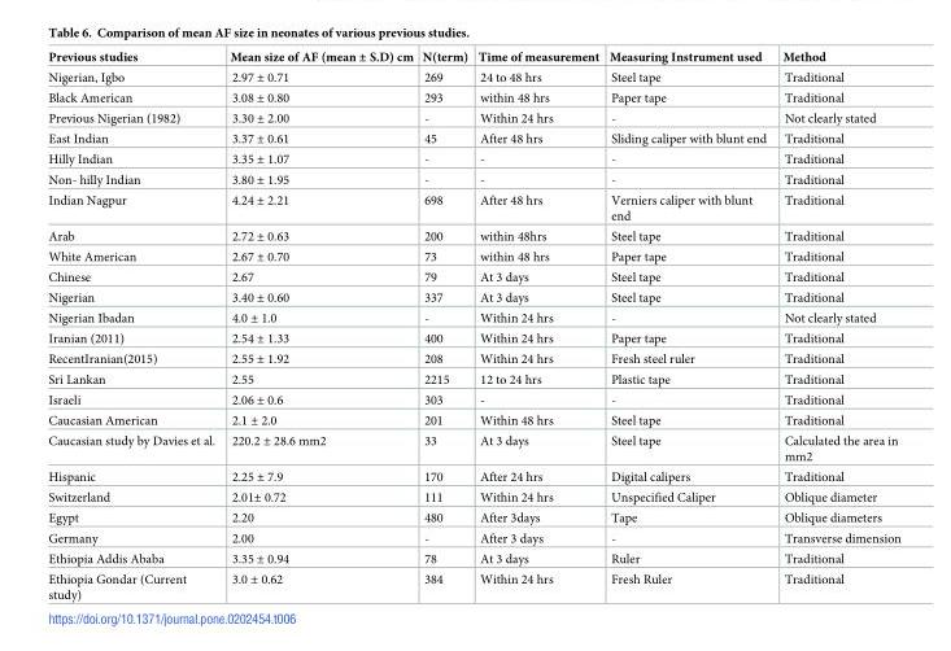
<table><thead><tr><td>Previous studies</td><td>Mean size of AF (mean ± S.D) cm</td><td>N(term)</td><td>Time of measurement</td><td>Measuring Instrument used</td><td>Method</td></tr></thead><tbody><tr><td>Nigerian, Igbo</td><td>2.97 ± 0.71</td><td>269</td><td>24 to 48 hrs</td><td>Steel tape</td><td>Traditional</td></tr><tr><td>Black American</td><td>3.08 ± 0.80</td><td>293</td><td>within 48 hrs</td><td>Paper tape</td><td>Traditional</td></tr><tr><td>Previous Nigerian (1982)</td><td>3.30 ± 2.00</td><td>-</td><td>Within 24 hrs</td><td>-</td><td>Not clearly stated</td></tr><tr><td>East Indian</td><td>3.37 ± 0.61</td><td>45</td><td>After 48 hrs</td><td>Sliding caliper with blunt end</td><td>Traditional</td></tr><tr><td>Hilly Indian</td><td>3.35 ± 1.07</td><td>-</td><td>-</td><td>-</td><td>Traditional</td></tr><tr><td>Non- hilly Indian</td><td>3.80 ± 1.95</td><td>-</td><td>-</td><td>-</td><td>Traditional</td></tr><tr><td>Indian Nagpur</td><td>4.24 ± 2.21</td><td>698</td><td>After 48 hrs</td><td>Verniers caliper with blunt end</td><td>Traditional</td></tr><tr><td>Arab</td><td>2.72 ± 0.63</td><td>200</td><td>within 48hrs</td><td>Steel tape</td><td>Traditional</td></tr><tr><td>White American</td><td>2.67 ± 0.70</td><td>73</td><td>within 48 hrs</td><td>Paper tape</td><td>Traditional</td></tr><tr><td>Chinese</td><td>2.67</td><td>79</td><td>At 3 days</td><td>Steel tape</td><td>Traditional</td></tr><tr><td>Nigerian</td><td>3.40 ± 0.60</td><td>337</td><td>At 3 days</td><td>Steel tape</td><td>Traditional</td></tr><tr><td>Nigerian Ibadan</td><td>4.0 ± 1.0</td><td>-</td><td>Within 24 hrs</td><td>-</td><td>Not clearly stated</td></tr><tr><td>Iranian (2011)</td><td>2.54 ± 1.33</td><td>400</td><td>Within 24 hrs</td><td>Paper tape</td><td>Traditional</td></tr><tr><td>RecentIranian(2015)</td><td>2.55 ± 1.92</td><td>208</td><td>Within 24 hrs</td><td>Fresh steel ruler</td><td>Traditional</td></tr><tr><td>Sri Lankan</td><td>2.55</td><td>2215</td><td>12 to 24 hrs</td><td>Plastic tape</td><td>Traditional</td></tr><tr><td>Israeli</td><td>2.06 ± 0.6</td><td>303</td><td>-</td><td>-</td><td>Traditional</td></tr><tr><td>Caucasian American</td><td>2.1 ± 2.0</td><td>201</td><td>Within 48 hrs</td><td>Steel tape</td><td>Traditional</td></tr><tr><td>Caucasian study by Davies et al.</td><td>220.2 ± 28.6 mm2</td><td>33</td><td>At 3 days</td><td>Steel tape</td><td>Calculated the area in mm2</td></tr><tr><td>Hispanic</td><td>2.25 ± 7.9</td><td>170</td><td>After 24 hrs</td><td>Digital calipers</td><td>Traditional</td></tr><tr><td>Switzerland</td><td>2.01± 0.72</td><td>111</td><td>Within 24 hrs</td><td>Unspecified Caliper</td><td>Oblique diameter</td></tr><tr><td>Egypt</td><td>2.20</td><td>480</td><td>After 3days</td><td>Tape</td><td>Oblique diameters</td></tr><tr><td>Germany</td><td>2.00</td><td>-</td><td>After 3 days</td><td>-</td><td>Transverse dimension</td></tr><tr><td>Ethiopia Addis Ababa</td><td>3.35 ± 0.94</td><td>78</td><td>At 3 days</td><td>Ruler</td><td>Traditional</td></tr><tr><td>Ethiopia Gondar (Current study)</td><td>3.0 ± 0.62</td><td>384</td><td>Within 24 hrs</td><td>Fresh Ruler</td><td>Traditional</td></tr></tbody></table>